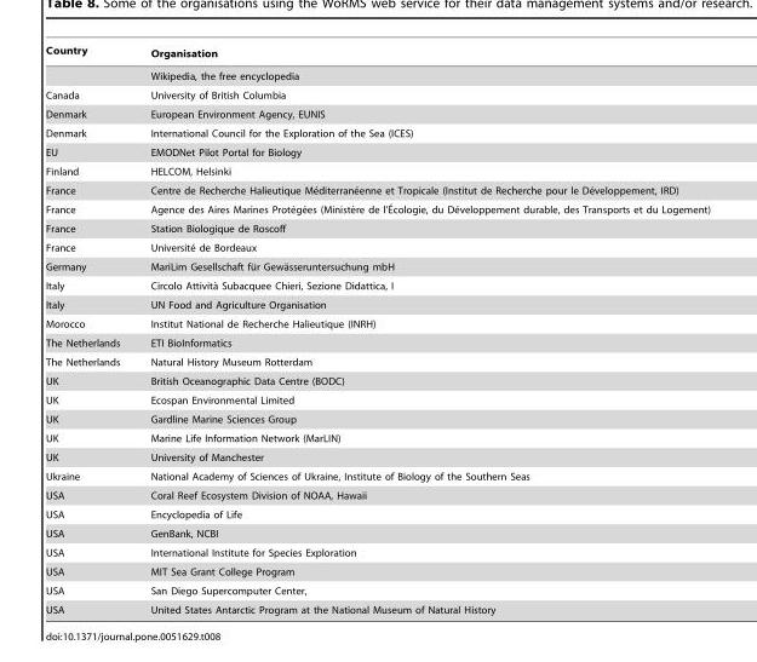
<table><thead><tr><td>Country</td><td>Organisation</td></tr></thead><tbody><tr><td></td><td>Wikipedia, the free encyclopedia</td></tr><tr><td>Canada</td><td>University of British Columbia</td></tr><tr><td>Denmark</td><td>European Environment Agency, EUNIS</td></tr><tr><td>Denmark</td><td>International Council for the Exploration of the Sea (ICES)</td></tr><tr><td>EU</td><td>EMODNet Pilot Portal for Biology</td></tr><tr><td>Finland</td><td>HELCOM, Helsinki</td></tr><tr><td>France</td><td>Centre de Recherche Halieutique Me´diterrane´enne et Tropicale (Institut de Recherche pour le De´veloppement, IRD)</td></tr><tr><td>France</td><td>Agence des Aires Marines Prote´ge´es (Ministe`re de l’E´cologie, du De´veloppement durable, des Transports et du Logement)</td></tr><tr><td>France</td><td>Station Biologique de Roscoff</td></tr><tr><td>France</td><td>Universite´ de Bordeaux</td></tr><tr><td>Germany</td><td>MariLim Gesellschaft fu¨r Gewa¨sseruntersuchung mbH</td></tr><tr><td>Italy</td><td>Circolo Attivita` Subacquee Chieri, Sezione Didattica, I</td></tr><tr><td>Italy</td><td>UN Food and Agriculture Organisation</td></tr><tr><td>Morocco</td><td>Institut National de Recherche Halieutique (INRH)</td></tr><tr><td>The Netherlands</td><td>ETI BioInformatics</td></tr><tr><td>The Netherlands</td><td>Natural History Museum Rotterdam</td></tr><tr><td>UK</td><td>British Oceanographic Data Centre (BODC)</td></tr><tr><td>UK</td><td>Ecospan Environmental Limited</td></tr><tr><td>UK</td><td>Gardline Marine Sciences Group</td></tr><tr><td>UK</td><td>Marine Life Information Network (MarLIN)</td></tr><tr><td>UK</td><td>University of Manchester</td></tr><tr><td>Ukraine</td><td>National Academy of Sciences of Ukraine, Institute of Biology of the Southern Seas</td></tr><tr><td>USA</td><td>Coral Reef Ecosystem Division of NOAA, Hawaii</td></tr><tr><td>USA</td><td>Encyclopedia of Life</td></tr><tr><td>USA</td><td>GenBank, NCBI</td></tr><tr><td>USA</td><td>International Institute for Species Exploration</td></tr><tr><td>USA</td><td>MIT Sea Grant College Program</td></tr><tr><td>USA</td><td>San Diego Supercomputer Center,</td></tr><tr><td>USA</td><td>United States Antarctic Program at the National Museum of Natural History</td></tr></tbody></table>